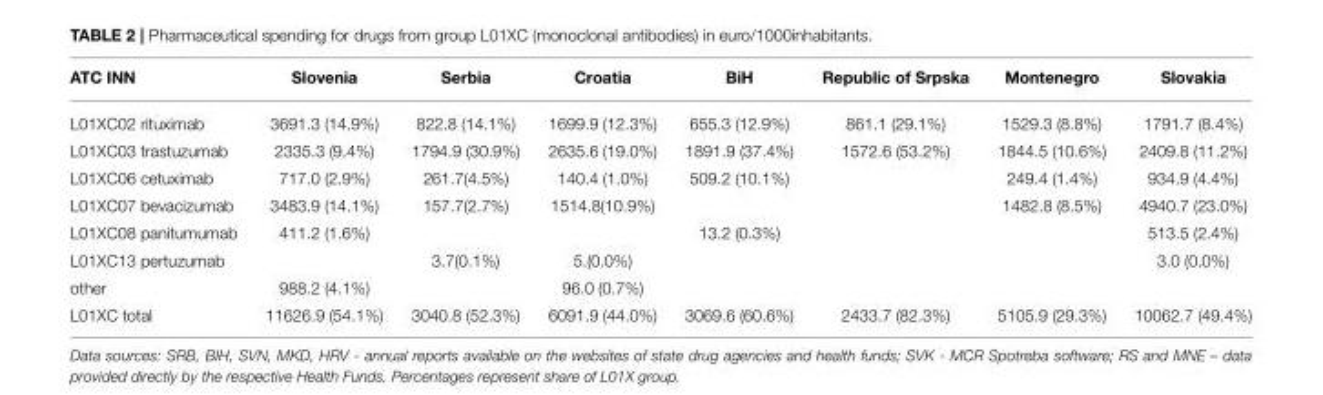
<table><thead><tr><td>ATC INN</td><td>Slovenia</td><td>Serbia</td><td>Croatia</td><td>BiH</td><td>Republic of Srpska</td><td>Montenegro</td><td>Slovakia</td></tr></thead><tbody><tr><td>L01XC02 rituximab</td><td>3691.3 (14.9%)</td><td>822.8 (14.1%)</td><td>1699.9 (12.3%)</td><td>655.3 (12.9%)</td><td>861.1 (29.1%)</td><td>1529.3 (8.8%)</td><td>1791.7 (8.4%)</td></tr><tr><td>L01XC03 trastuzumab</td><td>2335.3 (9.4%)</td><td>1794.9 (30.9%)</td><td>2635.6 (19.0%)</td><td>1891.9 (37.4%)</td><td>1572.6 (53.2%)</td><td>1844.5 (10.6%)</td><td>2409.8 (11.2%)</td></tr><tr><td>L01XC06 cetuximab</td><td>717.0 (2.9%)</td><td>261.7(4.5%)</td><td>140.4 (1.0%)</td><td>509.2 (10.1%)</td><td></td><td>249.4 (1.4%)</td><td>934.9 (4.4%)</td></tr><tr><td>L01XC07 bevacizumab</td><td>3483.9 (14.1%)</td><td>157.7(2.7%)</td><td>1514.8(10.9%)</td><td></td><td></td><td>1482.8 (8.5%)</td><td>4940.7 (23.0%)</td></tr><tr><td>L01XC08 panitumumab</td><td>411.2 (1.6%)</td><td></td><td></td><td>13.2 (0.3%)</td><td></td><td></td><td>513.5 (2.4%)</td></tr><tr><td>L01XC13 pertuzumab</td><td></td><td>3.7(0.1%)</td><td>5.(0.0%)</td><td></td><td></td><td></td><td>3.0 (0.0%)</td></tr><tr><td>other</td><td>988.2 (4.1%)</td><td></td><td>96.0 (0.7%)</td><td></td><td></td><td></td><td></td></tr><tr><td>L01XC total</td><td>11626.9 (54.1%)</td><td>3040.8 (52.3%)</td><td>6091.9 (44.0%)</td><td>3069.6 (60.6%)</td><td>2433.7 (82.3%)</td><td>5105.9 (29.3%)</td><td>10062.7 (49.4%)</td></tr></tbody></table>